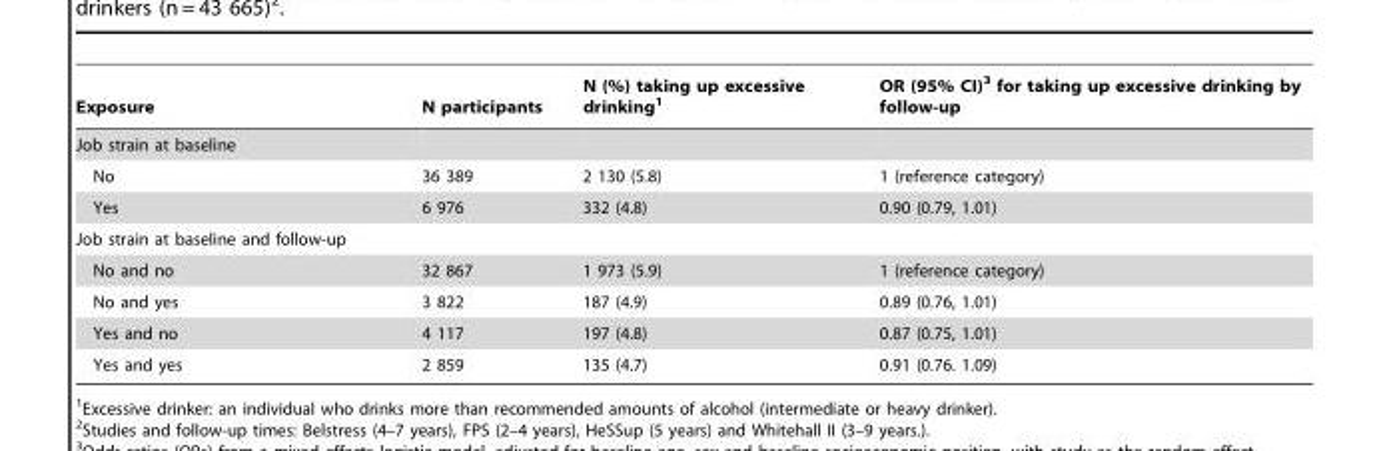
<table><thead><tr><td>Exposure</td><td>N participants</td><td>N (%) taking up excessive drinking<sup>1</sup></td><td>OR (95% CI)<sup>3</sup> for taking up excessive drinking by follow-up</td></tr></thead><tbody><tr><td colspan="4">Job strain at baseline</td></tr><tr><td>No</td><td>36 389</td><td>2 130 (5.8)</td><td>1 (reference category)</td></tr><tr><td>Yes</td><td>6 976</td><td>332 (4.8)</td><td>0.90 (0.79, 1.01)</td></tr><tr><td colspan="4">Job strain at baseline and follow-up</td></tr><tr><td>No and no</td><td>32 867</td><td>1 973 (5.9)</td><td>1 (reference category)</td></tr><tr><td>No and yes</td><td>3 822</td><td>187 (4.9)</td><td>0.89 (0.76, 1.01)</td></tr><tr><td>Yes and no</td><td>4 117</td><td>197 (4.8)</td><td>0.87 (0.75, 1.01)</td></tr><tr><td>Yes and yes</td><td>2 859</td><td>135 (4.7)</td><td>0.91 (0.76. 1.09)</td></tr></tbody></table>